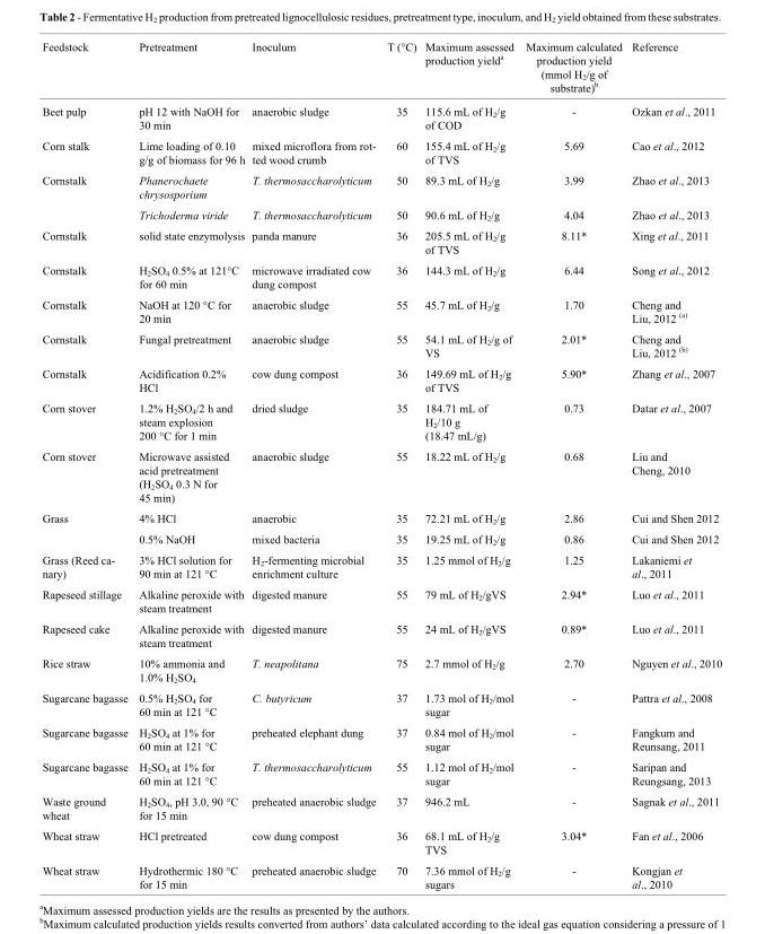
<table><thead><tr><td>Feedstock</td><td>Pretreatment</td><td>Inoculum</td><td>T (°C)</td><td>Maximum assessed production yield<sup>a</sup></td><td>Maximum calculated production yield (mmol H<sub>2</sub>/g of substrate)<sup>b</sup></td><td>Reference</td></tr></thead><tbody><tr><td>Beet pulp</td><td>pH 12 with NaOH for 30 min</td><td>anaerobic sludge</td><td>35</td><td>115.6 mL of H<sub>2</sub>/g of COD</td><td>-</td><td>Ozkan et al., 2011</td></tr><tr><td>Corn stalk</td><td>Lime loading of 0.10 g/g of biomass for 96 h</td><td>mixed microflora from rot- ted wood crumb</td><td>60</td><td>155.4 mL of H<sub>2</sub>/g of TVS</td><td>5.69</td><td>Cao et al., 2012</td></tr><tr><td rowspan="2">Cornstalk</td><td>Phanerochaete chrysosporium</td><td>T. thermosaccharolyticum</td><td>50</td><td>89.3 mL of H<sub>2</sub>/g</td><td>3.99</td><td>Zhao et al., 2013</td></tr><tr><td>Trichoderma viride</td><td>T. thermosaccharolyticum</td><td>50</td><td>90.6 mL of H<sub>2</sub>/g</td><td>4.04</td><td>Zhao et al., 2013</td></tr><tr><td>Cornstalk</td><td>solid state enzymolysis</td><td>panda manure</td><td>36</td><td>205.5 mL of H<sub>2</sub>/g of TVS</td><td>8.11*</td><td>Xing et al., 2011</td></tr><tr><td>Cornstalk</td><td>H<sub>2</sub>SO<sub>4</sub> 0.5% at 121°C for 60 min</td><td>microwave irradiated cow dung compost</td><td>36</td><td>144.3 mL of H<sub>2</sub>/g</td><td>6.44</td><td>Song et al., 2012</td></tr><tr><td>Cornstalk</td><td>NaOH at 120 °C for 20 min</td><td>anaerobic sludge</td><td>55</td><td>45.7 mL of H<sub>2</sub>/g</td><td>1.70</td><td>Cheng and Liu, 2012 (a)</td></tr><tr><td>Cornstalk</td><td>Fungal pretreatment</td><td>anaerobic sludge</td><td>55</td><td>54.1 mL of H<sub>2</sub>/g of VS</td><td>2.01*</td><td>Cheng and Liu, 2012 (b)</td></tr><tr><td>Cornstalk</td><td>Acidification 0.2% HCl</td><td>cow dung compost</td><td>36</td><td>149.69 mL of H<sub>2</sub>/g of TVS</td><td>5.90*</td><td>Zhang et al., 2007</td></tr><tr><td>Corn stover</td><td>1.2% H<sub>2</sub>SO<sub>4</sub>/2 h and steam explosion 200 °C for 1 min</td><td>dried sludge</td><td>35</td><td>184.71 mL of H<sub>2</sub>/10 g (18.47 mL/g)</td><td>0.73</td><td>Datar et al., 2007</td></tr><tr><td>Corn stover</td><td>Microwave assisted acid pretreatment (H<sub>2</sub>SO<sub>4</sub> 0.3 N for 45 min)</td><td>anaerobic sludge</td><td>55</td><td>18.22 mL of H<sub>2</sub>/g</td><td>0.68</td><td>Liu and Cheng, 2010</td></tr><tr><td rowspan="2">Grass</td><td>4% HCl</td><td>anaerobic</td><td>35</td><td>72.21 mL of H<sub>2</sub>/g</td><td>2.86</td><td>Cui and Shen 2012</td></tr><tr><td>0.5% NaOH</td><td>mixed bacteria</td><td>35</td><td>19.25 mL of H<sub>2</sub>/g</td><td>0.86</td><td>Cui and Shen 2012</td></tr><tr><td>Grass (Reed ca- nary)</td><td>3% HCl solution for 90 min at 121 °C</td><td>H<sub>2</sub>-fermenting microbial enrichment culture</td><td>35</td><td>1.25 mmol of H<sub>2</sub>/g</td><td>1.25</td><td>Lakaniemi et al., 2011</td></tr><tr><td>Rapeseed stillage</td><td>Alkaline peroxide with steam treatment</td><td>digested manure</td><td>55</td><td>79 mL of H<sub>2</sub>/gVS</td><td>2.94*</td><td>Luo et al., 2011</td></tr><tr><td>Rapeseed cake</td><td>Alkaline peroxide with steam treatment</td><td>digested manure</td><td>55</td><td>24 mL of H<sub>2</sub>/gVS</td><td>0.89*</td><td>Luo et al., 2011</td></tr><tr><td>Rice straw</td><td>10% ammonia and 1.0% H<sub>2</sub>SO<sub>4</sub></td><td>T. neapolitana</td><td>75</td><td>2.7 mmol of H<sub>2</sub>/g</td><td>2.70</td><td>Nguyen et al., 2010</td></tr><tr><td>Sugarcane bagasse</td><td>0.5% H<sub>2</sub>SO<sub>4</sub> for 60 min at 121 °C</td><td>C. butyricum</td><td>37</td><td>1.73 mol of H<sub>2</sub>/mol sugar</td><td>-</td><td>Pattra et al., 2008</td></tr><tr><td>Sugarcane bagasse</td><td>H<sub>2</sub>SO<sub>4</sub> at 1% for 60 min at 121 °C</td><td>preheated elephant dung</td><td>37</td><td>0.84 mol of H<sub>2</sub>/mol sugar</td><td>-</td><td>Fangkum and Reunsang, 2011</td></tr><tr><td>Sugarcane bagasse</td><td>H<sub>2</sub>SO<sub>4</sub> at 1% for 60 min at 121 °C</td><td>T. thermosaccharolyticum</td><td>55</td><td>1.12 mol of H<sub>2</sub>/mol sugar</td><td>-</td><td>Saripan and Reungsang, 2013</td></tr><tr><td>Waste ground wheat</td><td>H<sub>2</sub>SO<sub>4</sub>, pH 3.0, 90 °C for 15 min</td><td>preheated anaerobic sludge</td><td>37</td><td>946.2 mL</td><td>-</td><td>Sagnak et al., 2011</td></tr><tr><td>Wheat straw</td><td>HCl pretreated</td><td>cow dung compost</td><td>36</td><td>68.1 mL of H<sub>2</sub>/g TVS</td><td>3.04*</td><td>Fan et al., 2006</td></tr><tr><td>Wheat straw</td><td>Hydrothermic 180 °C for 15 min</td><td>preheated anaerobic sludge</td><td>70</td><td>7.36 mmol of H<sub>2</sub>/g sugars</td><td>-</td><td>Kongjan et al., 2010</td></tr></tbody></table>